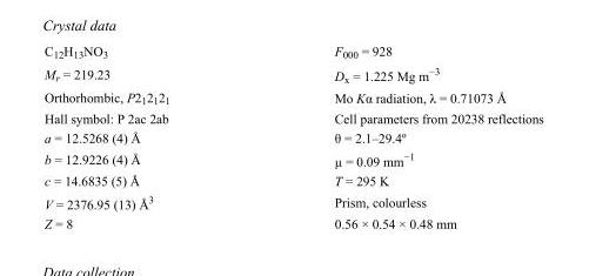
<table><tbody><tr><td>C<sub>12</sub>H<sub>13</sub>NO<sub>3</sub></td><td>F000 = 928</td></tr><tr><td>M<sub>r</sub> = 219.23</td><td>D<sub>x</sub> = 1.225 Mg m<sup>−3</sup></td></tr><tr><td>Orthorhombic, P2<sub>1</sub>2<sub>1</sub>2<sub>1</sub></td><td>Mo Kα radiation, λ = 0.71073 Å</td></tr><tr><td>Hall symbol: P 2ac 2ab</td><td>Cell parameters from 20238 reflections</td></tr><tr><td>a = 12.5268 (4) Å</td><td>θ = 2.1–29.4º</td></tr><tr><td>b = 12.9226 (4) Å</td><td>µ = 0.09 mm<sup>−1</sup></td></tr><tr><td>c = 14.6835 (5) Å</td><td>T = 295 K</td></tr><tr><td>V = 2376.95 (13) Å<sup>3</sup></td><td>Prism, colourless</td></tr><tr><td>Z = 8</td><td>0.56 × 0.54 × 0.48 mm</td></tr></tbody></table>